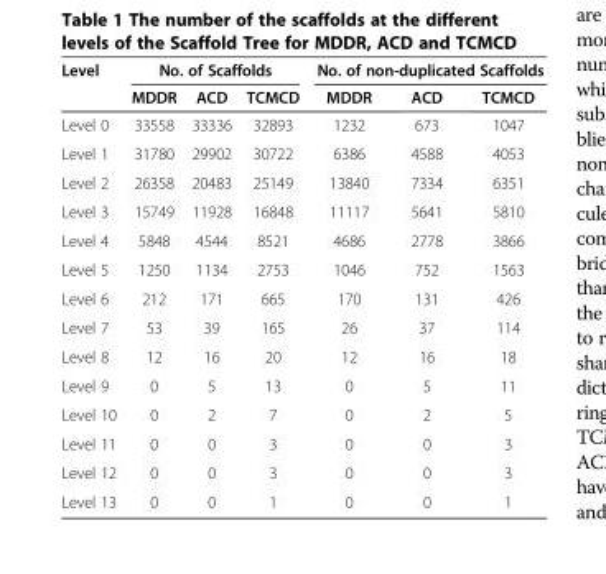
<table><thead><tr><td rowspan="2">Level</td><td colspan="3">No. of Scaffolds</td><td colspan="3">No. of non-duplicated Scaffolds</td></tr><tr><td>MDDR</td><td>ACD</td><td>TCMCD</td><td>MDDR</td><td>ACD</td><td>TCMCD</td></tr></thead><tbody><tr><td>Level 0</td><td>33558</td><td>33336</td><td>32893</td><td>1232</td><td>673</td><td>1047</td></tr><tr><td>Level 1</td><td>31780</td><td>29902</td><td>30722</td><td>6386</td><td>4588</td><td>4053</td></tr><tr><td>Level 2</td><td>26358</td><td>20483</td><td>25149</td><td>13840</td><td>7334</td><td>6351</td></tr><tr><td>Level 3</td><td>15749</td><td>11928</td><td>16848</td><td>11117</td><td>5641</td><td>5810</td></tr><tr><td>Level 4</td><td>5848</td><td>4544</td><td>8521</td><td>4686</td><td>2778</td><td>3866</td></tr><tr><td>Level 5</td><td>1250</td><td>1134</td><td>2753</td><td>1046</td><td>752</td><td>1563</td></tr><tr><td>Level 6</td><td>212</td><td>171</td><td>665</td><td>170</td><td>131</td><td>426</td></tr><tr><td>Level 7</td><td>53</td><td>39</td><td>165</td><td>26</td><td>37</td><td>114</td></tr><tr><td>Level 8</td><td>12</td><td>16</td><td>20</td><td>12</td><td>16</td><td>18</td></tr><tr><td>Level 9</td><td>0</td><td>5</td><td>13</td><td>0</td><td>5</td><td>11</td></tr><tr><td>Level 10</td><td>0</td><td>2</td><td>7</td><td>0</td><td>2</td><td>5</td></tr><tr><td>Level 11</td><td>0</td><td>0</td><td>3</td><td>0</td><td>0</td><td>3</td></tr><tr><td>Level 12</td><td>0</td><td>0</td><td>3</td><td>0</td><td>0</td><td>3</td></tr><tr><td>Level 13</td><td>0</td><td>0</td><td>1</td><td>0</td><td>0</td><td>1</td></tr></tbody></table>